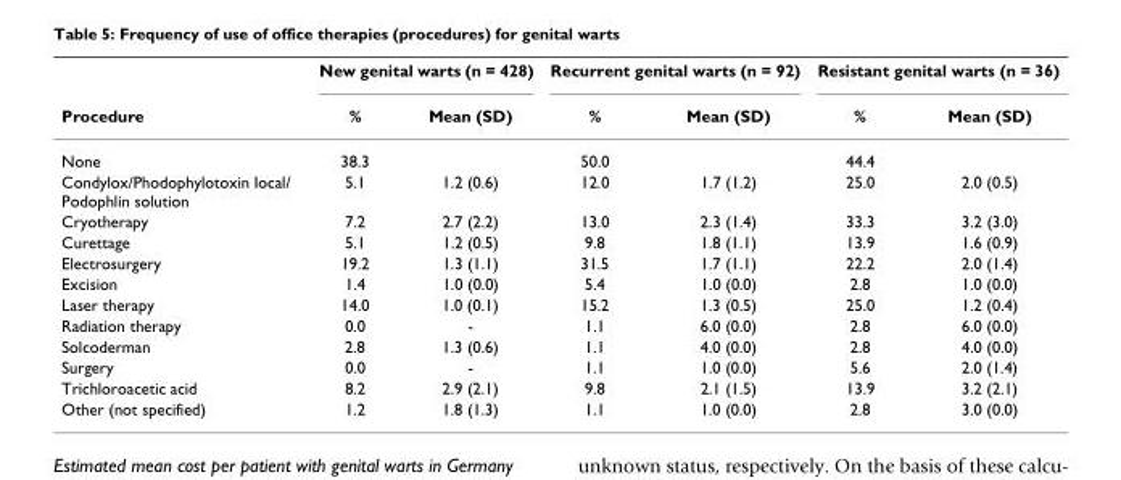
<table><thead><tr><td rowspan="2">Procedure</td><td colspan="2">New genital warts (n = 428)</td><td colspan="2">Recurrent genital warts (n = 92)</td><td colspan="2">Resistant genital warts (n = 36)</td></tr><tr><td>%</td><td>Mean (SD)</td><td>%</td><td>Mean (SD)</td><td>%</td><td>Mean (SD)</td></tr></thead><tbody><tr><td>None</td><td>38.3</td><td></td><td>50.0</td><td></td><td>44.4</td><td></td></tr><tr><td>Condylox/Phodophylotoxin Iocal/ Podophlin solution</td><td>5.1</td><td>1.2 (0.6)</td><td>12.0</td><td>1.7 (1.2)</td><td>25.0</td><td>2.0 (0.5)</td></tr><tr><td>Cryotherapy</td><td>7.2</td><td>2.7 (2.2)</td><td>13.0</td><td>2.3 (1.4)</td><td>33.3</td><td>3.2 (3.0)</td></tr><tr><td>Curettage</td><td>5.1</td><td>1.2 (0.5)</td><td>9.8</td><td>1.8 (1.1)</td><td>13.9</td><td>1.6 (0.9)</td></tr><tr><td>Electrosurgery</td><td>19.2</td><td>1.3 (1.1)</td><td>31.5</td><td>1.7 (1.1)</td><td>22.2</td><td>2.0 (1.4)</td></tr><tr><td>Excision</td><td>1.4</td><td>1.0 (0.0)</td><td>5.4</td><td>1.0 (0.0)</td><td>2.8</td><td>1.0 (0.0)</td></tr><tr><td>Laser therapy</td><td>14.0</td><td>1.0 (0.1)</td><td>15.2</td><td>1.3 (0.5)</td><td>25.0</td><td>1.2 (0.4)</td></tr><tr><td>Radiation therapy</td><td>0.0</td><td>-</td><td>1.1</td><td>6.0 (0.0)</td><td>2.8</td><td>6.0 (0.0)</td></tr><tr><td>Solcoderman</td><td>2.8</td><td>1.3 (0.6)</td><td>1.1</td><td>4.0 (0.0)</td><td>2.8</td><td>4.0 (0.0)</td></tr><tr><td>Surgery</td><td>0.0</td><td>-</td><td>1.1</td><td>1.0 (0.0)</td><td>5.6</td><td>2.0 (1.4)</td></tr><tr><td>Trichloroacetic acid</td><td>8.2</td><td>2.9 (2.1)</td><td>9.8</td><td>2.1 (1.5)</td><td>13.9</td><td>3.2 (2.1)</td></tr><tr><td>Other (not specified)</td><td>1.2</td><td>1.8 (1.3)</td><td>1.1</td><td>1.0 (0.0)</td><td>2.8</td><td>3.0 (0.0)</td></tr></tbody></table>